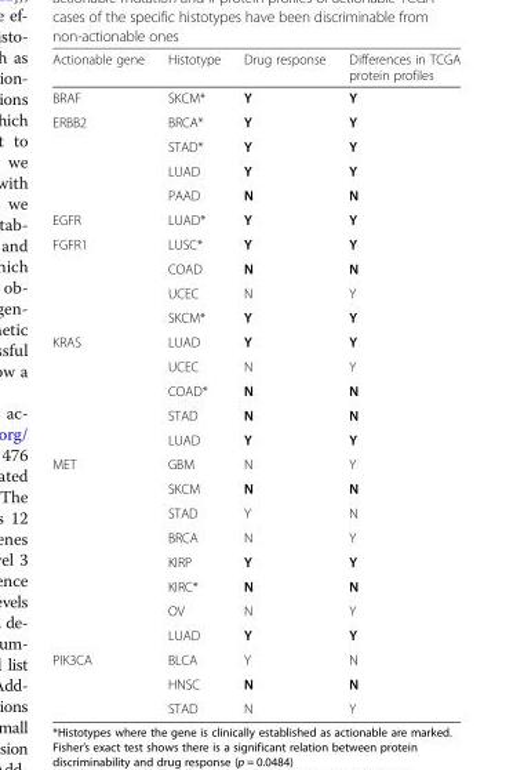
<table><thead><tr><td>Actionable gene</td><td>Histotype</td><td>Drug response</td><td>Differences in TCGA protein profiles</td></tr></thead><tbody><tr><td>BRAF</td><td>SKCM*</td><td>Y</td><td>Y</td></tr><tr><td rowspan="4">ERBB2</td><td>BRCA*</td><td>Y</td><td>Y</td></tr><tr><td>STAD*</td><td>Y</td><td>Y</td></tr><tr><td>LUAD</td><td>Y</td><td>Y</td></tr><tr><td>PAAD</td><td>N</td><td>N</td></tr><tr><td>EGFR</td><td>LUAD*</td><td>Y</td><td>Y</td></tr><tr><td rowspan="4">FGFR1</td><td>LUSC*</td><td>Y</td><td>Y</td></tr><tr><td>COAD</td><td>N</td><td>N</td></tr><tr><td>UCEC</td><td>N</td><td>Y</td></tr><tr><td>SKCM*</td><td>Y</td><td>Y</td></tr><tr><td rowspan="5">KRAS</td><td>LUAD</td><td>Y</td><td>Y</td></tr><tr><td>UCEC</td><td>N</td><td>Y</td></tr><tr><td>COAD*</td><td>N</td><td>N</td></tr><tr><td>STAD</td><td>N</td><td>N</td></tr><tr><td>LUAD</td><td>Y</td><td>Y</td></tr><tr><td rowspan="8">MET</td><td>GBM</td><td>N</td><td>Y</td></tr><tr><td>SKCM</td><td>N</td><td>N</td></tr><tr><td>STAD</td><td>Y</td><td>N</td></tr><tr><td>BRCA</td><td>N</td><td>Y</td></tr><tr><td>KIRP</td><td>Y</td><td>Y</td></tr><tr><td>KIRC*</td><td>N</td><td>N</td></tr><tr><td>OV</td><td>N</td><td>Y</td></tr><tr><td>LUAD</td><td>Y</td><td>Y</td></tr><tr><td rowspan="3">PIK3CA</td><td>BLCA</td><td>Y</td><td>N</td></tr><tr><td>HNSC</td><td>N</td><td>N</td></tr><tr><td>STAD</td><td>N</td><td>Y</td></tr></tbody></table>